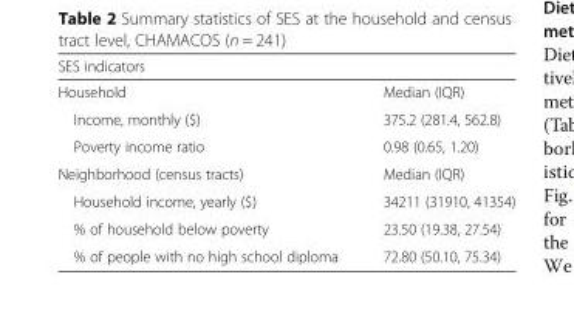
<table><thead><tr><td>SES indicators</td><td></td></tr></thead><tbody><tr><td>Household</td><td>Median (IQR)</td></tr><tr><td>Income, monthly ($)</td><td>375.2 (281.4, 562.8)</td></tr><tr><td>Poverty income ratio</td><td>0.98 (0.65, 1.20)</td></tr><tr><td>Neighborhood (census tracts)</td><td>Median (IQR)</td></tr><tr><td>Household income, yearly ($)</td><td>34211 (31910, 41354)</td></tr><tr><td>% of household below poverty</td><td>23.50 (19.38, 27.54)</td></tr><tr><td>% of people with no high school diploma</td><td>72.80 (50.10, 75.34)</td></tr></tbody></table>